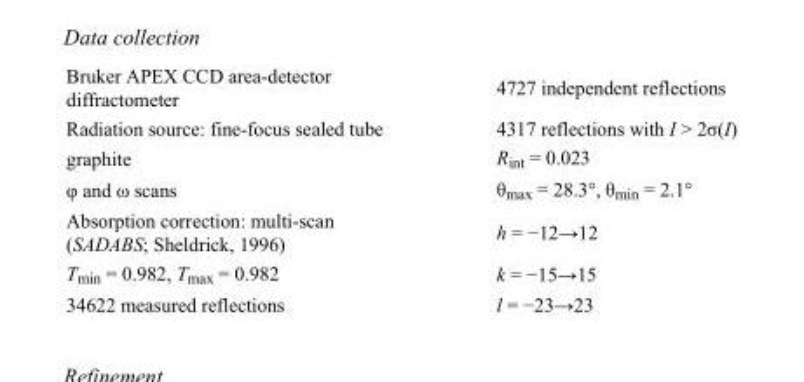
<table><tbody><tr><td>Bruker APEX CCD area-detector diffractometer</td><td>4727 independent reflections</td></tr><tr><td>Radiation source: fine-focus sealed tube</td><td>4317 reflections with I &gt; 2σ(I)</td></tr><tr><td>graphite</td><td>R<sub>int</sub> = 0.023</td></tr><tr><td>φ and ω scans</td><td>θ<sub>max</sub> = 28.3°, θ<sub>min</sub> = 2.1°</td></tr><tr><td>Absorption correction: multi-scan (SADABS; Sheldrick, 1996)</td><td>h = −12→12</td></tr><tr><td>T<sub>min</sub> = 0.982, T<sub>max</sub> = 0.982</td><td>k = −15→15</td></tr><tr><td>34622 measured reflections</td><td>l = −23→23</td></tr></tbody></table>